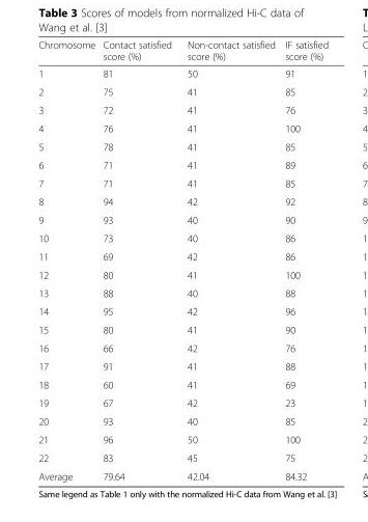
<table><thead><tr><td>Chromosome</td><td>Contact satisfied score (%)</td><td>Non-contact satisfied score (%)</td><td>IF satisfied score (%)</td></tr></thead><tbody><tr><td>1</td><td>81</td><td>50</td><td>91</td></tr><tr><td>2</td><td>75</td><td>41</td><td>85</td></tr><tr><td>3</td><td>72</td><td>41</td><td>76</td></tr><tr><td>4</td><td>76</td><td>41</td><td>100</td></tr><tr><td>5</td><td>78</td><td>41</td><td>85</td></tr><tr><td>6</td><td>71</td><td>41</td><td>89</td></tr><tr><td>7</td><td>71</td><td>41</td><td>85</td></tr><tr><td>8</td><td>94</td><td>42</td><td>92</td></tr><tr><td>9</td><td>93</td><td>40</td><td>90</td></tr><tr><td>10</td><td>73</td><td>40</td><td>86</td></tr><tr><td>11</td><td>69</td><td>42</td><td>86</td></tr><tr><td>12</td><td>80</td><td>41</td><td>100</td></tr><tr><td>13</td><td>88</td><td>40</td><td>88</td></tr><tr><td>14</td><td>95</td><td>42</td><td>96</td></tr><tr><td>15</td><td>80</td><td>41</td><td>90</td></tr><tr><td>16</td><td>66</td><td>42</td><td>76</td></tr><tr><td>17</td><td>91</td><td>41</td><td>88</td></tr><tr><td>18</td><td>60</td><td>41</td><td>69</td></tr><tr><td>19</td><td>67</td><td>42</td><td>23</td></tr><tr><td>20</td><td>93</td><td>40</td><td>85</td></tr><tr><td>21</td><td>96</td><td>50</td><td>100</td></tr><tr><td>22</td><td>83</td><td>45</td><td>75</td></tr><tr><td>Average</td><td>79.64</td><td>42.04</td><td>84.32</td></tr></tbody></table>